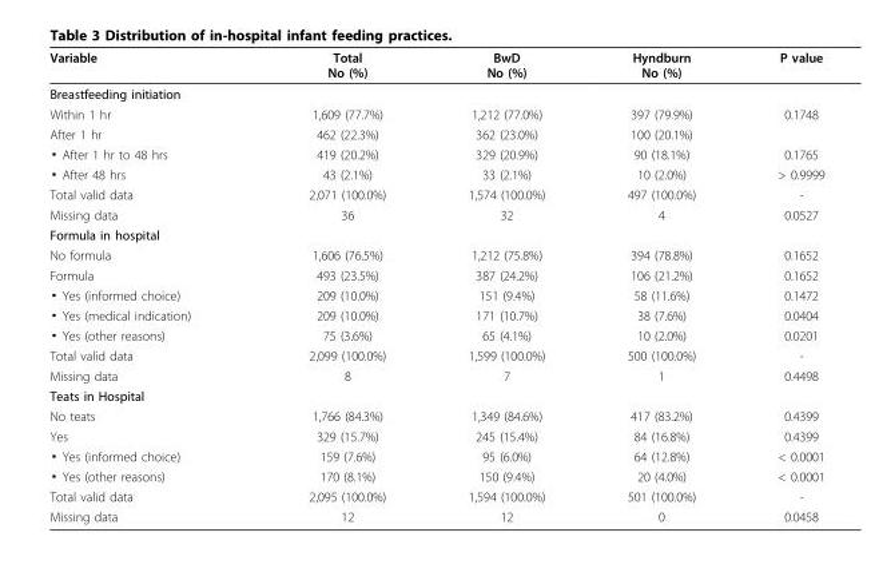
<table><thead><tr><td>Variable</td><td>Total No (%)</td><td>BwD No (%)</td><td>Hyndburn No (%)</td><td>P value</td></tr></thead><tbody><tr><td colspan="5">Breastfeeding initiation</td></tr><tr><td>Within 1 hr</td><td>1,609 (77.7%)</td><td>1,212 (77.0%)</td><td>397 (79.9%)</td><td>0.1748</td></tr><tr><td>After 1 hr</td><td>462 (22.3%)</td><td>362 (23.0%)</td><td>100 (20.1%)</td><td></td></tr><tr><td>▪ After 1 hr to 48 hrs</td><td>419 (20.2%)</td><td>329 (20.9%)</td><td>90 (18.1%)</td><td>0.1765</td></tr><tr><td>▪ After 48 hrs</td><td>43 (2.1%)</td><td>33 (2.1%)</td><td>10 (2.0%)</td><td>&gt; 0.9999</td></tr><tr><td>Total valid data</td><td>2,071 (100.0%)</td><td>1,574 (100.0%)</td><td>497 (100.0%)</td><td>-</td></tr><tr><td>Missing data</td><td>36</td><td>32</td><td>4</td><td>0.0527</td></tr><tr><td colspan="5">Formula in hospital</td></tr><tr><td>No formula</td><td>1,606 (76.5%)</td><td>1,212 (75.8%)</td><td>394 (78.8%)</td><td>0.1652</td></tr><tr><td>Formula</td><td>493 (23.5%)</td><td>387 (24.2%)</td><td>106 (21.2%)</td><td>0.1652</td></tr><tr><td>▪ Yes (informed choice)</td><td>209 (10.0%)</td><td>151 (9.4%)</td><td>58 (11.6%)</td><td>0.1472</td></tr><tr><td>▪ Yes (medical indication)</td><td>209 (10.0%)</td><td>171 (10.7%)</td><td>38 (7.6%)</td><td>0.0404</td></tr><tr><td>▪ Yes (other reasons)</td><td>75 (3.6%)</td><td>65 (4.1%)</td><td>10 (2.0%)</td><td>0.0201</td></tr><tr><td>Total valid data</td><td>2,099 (100.0%)</td><td>1,599 (100.0%)</td><td>500 (100.0%)</td><td>-</td></tr><tr><td>Missing data</td><td>8</td><td>7</td><td>1</td><td>0.4498</td></tr><tr><td colspan="5">Teats in Hospital</td></tr><tr><td>No teats</td><td>1,766 (84.3%)</td><td>1,349 (84.6%)</td><td>417 (83.2%)</td><td>0.4399</td></tr><tr><td>Yes</td><td>329 (15.7%)</td><td>245 (15.4%)</td><td>84 (16.8%)</td><td>0.4399</td></tr><tr><td>▪ Yes (informed choice)</td><td>159 (7.6%)</td><td>95 (6.0%)</td><td>64 (12.8%)</td><td>&lt; 0.0001</td></tr><tr><td>▪ Yes (other reasons)</td><td>170 (8.1%)</td><td>150 (9.4%)</td><td>20 (4.0%)</td><td>&lt; 0.0001</td></tr><tr><td>Total valid data</td><td>2,095 (100.0%)</td><td>1,594 (100.0%)</td><td>501 (100.0%)</td><td>-</td></tr><tr><td>Missing data</td><td>12</td><td>12</td><td>0</td><td>0.0458</td></tr></tbody></table>